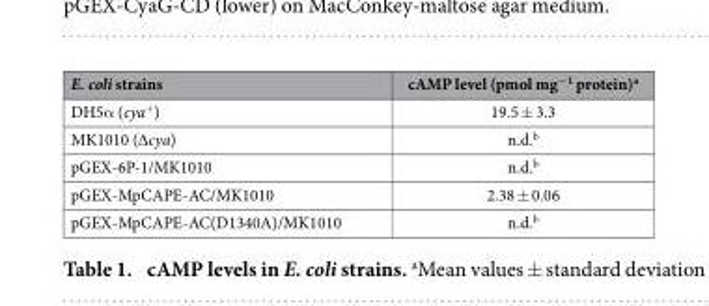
<table><thead><tr><td>E. coli strains</td><td>cAMP level (pmol mg<sup>−1</sup> protein)<sup>a</sup></td></tr></thead><tbody><tr><td>DH5α (cya<sup>+</sup>)</td><td>19.5 ± 3.3</td></tr><tr><td>MK1010 (∆cya)</td><td>n.d.<sup>b</sup></td></tr><tr><td>pGEX-6P-1/MK1010</td><td>n.d.<sup>b</sup></td></tr><tr><td>pGEX-MpCAPE-AC/MK1010</td><td>2.38 ± 0.06</td></tr><tr><td>pGEX-MpCAPE-AC(D1340A)/MK1010</td><td>n.d.<sup>b</sup></td></tr></tbody></table>